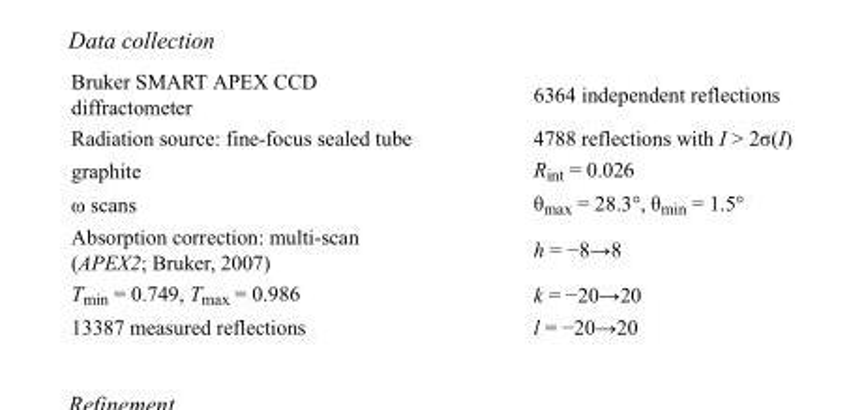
<table><tbody><tr><td>Bruker SMART APEX CCD diffractometer</td><td>6364 independent reflections</td></tr><tr><td>Radiation source: fine-focus sealed tube</td><td>4788 reflections with I &gt; 2σ(I)</td></tr><tr><td>graphite</td><td>R<sub>int</sub> = 0.026</td></tr><tr><td>ω scans</td><td>θ<sub>max</sub> = 28.3°, θ<sub>min</sub> = 1.5°</td></tr><tr><td>Absorption correction: multi-scan (APEX2; Bruker, 2007)</td><td>h = −8→8</td></tr><tr><td>T<sub>min</sub> = 0.749, T<sub>max</sub> = 0.986</td><td>k = −20→20</td></tr><tr><td>13387 measured reflections</td><td>l = −20→20</td></tr></tbody></table>